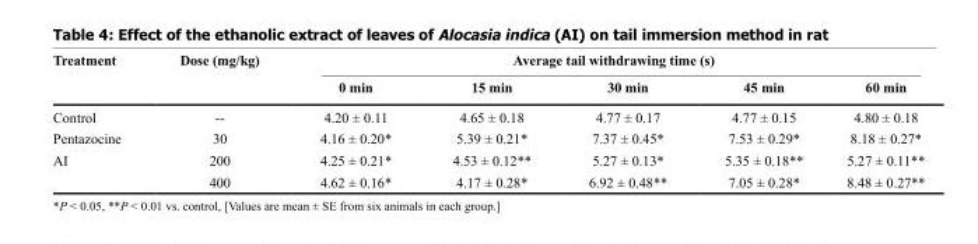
<table><thead><tr><td rowspan="2">Treatment</td><td rowspan="2">Dose (mg/kg)</td><td colspan="5">Average tail withdrawing time (s)</td></tr><tr><td>0 min</td><td>15 min</td><td>30 min</td><td>45 min</td><td>60 min</td></tr></thead><tbody><tr><td>Control</td><td>--</td><td>4.20 ± 0.11</td><td>4.65 ± 0.18</td><td>4.77 ± 0.17</td><td>4.77 ± 0.15</td><td>4.80 ± 0.18</td></tr><tr><td>Pentazocine</td><td>30</td><td>4.16 ± 0.20*</td><td>5.39 ± 0.21*</td><td>7.37 ± 0.45*</td><td>7.53 ± 0.29*</td><td>8.18 ± 0.27*</td></tr><tr><td rowspan="2">AI</td><td>200</td><td>4.25 ± 0.21*</td><td>4.53 ± 0.12**</td><td>5.27 ± 0.13*</td><td>5.35 ± 0.18**</td><td>5.27 ± 0.11**</td></tr><tr><td>400</td><td>4.62 ± 0.16*</td><td>4.17 ± 0.28*</td><td>6.92 ± 0.48**</td><td>7.05 ± 0.28*</td><td>8.48 ± 0.27**</td></tr></tbody></table>